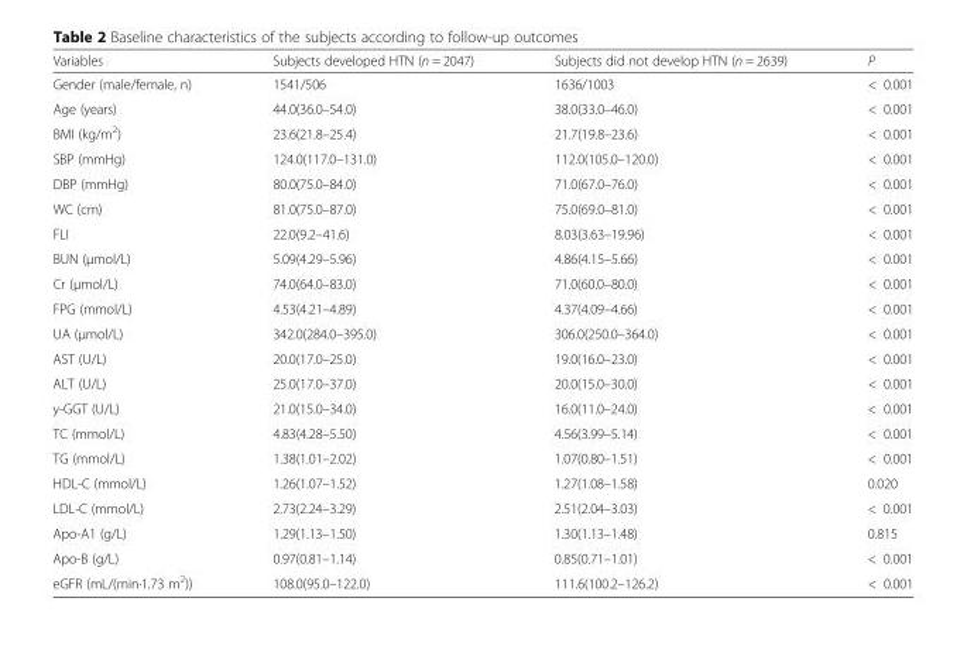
<table><thead><tr><td>Variables</td><td>Subjects developed HTN (n = 2047)</td><td>Subjects did not develop HTN (n = 2639)</td><td>P</td></tr></thead><tbody><tr><td>Gender (male/female, n)</td><td>1541/506</td><td>1636/1003</td><td>&lt; 0.001</td></tr><tr><td>Age (years)</td><td>44.0(36.0–54.0)</td><td>38.0(33.0–46.0)</td><td>&lt; 0.001</td></tr><tr><td>BMI (kg/m2)</td><td>23.6(21.8–25.4)</td><td>21.7(19.8–23.6)</td><td>&lt; 0.001</td></tr><tr><td>SBP (mmHg)</td><td>124.0(117.0–131.0)</td><td>112.0(105.0–120.0)</td><td>&lt; 0.001</td></tr><tr><td>DBP (mmHg)</td><td>80.0(75.0–84.0)</td><td>71.0(67.0–76.0)</td><td>&lt; 0.001</td></tr><tr><td>WC (cm)</td><td>81.0(75.0–87.0)</td><td>75.0(69.0–81.0)</td><td>&lt; 0.001</td></tr><tr><td>FLI</td><td>22.0(9.2–41.6)</td><td>8.03(3.63–19.96)</td><td>&lt; 0.001</td></tr><tr><td>BUN (μmol/L)</td><td>5.09(4.29–5.96)</td><td>4.86(4.15–5.66)</td><td>&lt; 0.001</td></tr><tr><td>Cr (μmol/L)</td><td>74.0(64.0–83.0)</td><td>71.0(60.0–80.0)</td><td>&lt; 0.001</td></tr><tr><td>FPG (mmol/L)</td><td>4.53(4.21–4.89)</td><td>4.37(4.09–4.66)</td><td>&lt; 0.001</td></tr><tr><td>UA (μmol/L)</td><td>342.0(284.0–395.0)</td><td>306.0(250.0–364.0)</td><td>&lt; 0.001</td></tr><tr><td>AST (U/L)</td><td>20.0(17.0–25.0)</td><td>19.0(16.0–23.0)</td><td>&lt; 0.001</td></tr><tr><td>ALT (U/L)</td><td>25.0(17.0–37.0)</td><td>20.0(15.0–30.0)</td><td>&lt; 0.001</td></tr><tr><td>y-GGT (U/L)</td><td>21.0(15.0–34.0)</td><td>16.0(11.0–24.0)</td><td>&lt; 0.001</td></tr><tr><td>TC (mmol/L)</td><td>4.83(4.28–5.50)</td><td>4.56(3.99–5.14)</td><td>&lt; 0.001</td></tr><tr><td>TG (mmol/L)</td><td>1.38(1.01–2.02)</td><td>1.07(0.80–1.51)</td><td>&lt; 0.001</td></tr><tr><td>HDL-C (mmol/L)</td><td>1.26(1.07–1.52)</td><td>1.27(1.08–1.58)</td><td>0.020</td></tr><tr><td>LDL-C (mmol/L)</td><td>2.73(2.24–3.29)</td><td>2.51(2.04–3.03)</td><td>&lt; 0.001</td></tr><tr><td>Apo-A1 (g/L)</td><td>1.29(1.13–1.50)</td><td>1.30(1.13–1.48)</td><td>0.815</td></tr><tr><td>Apo-B (g/L)</td><td>0.97(0.81–1.14)</td><td>0.85(0.71–1.01)</td><td>&lt; 0.001</td></tr><tr><td>eGFR (mL/(min·1.73 m2))</td><td>108.0(95.0–122.0)</td><td>111.6(100.2–126.2)</td><td>&lt; 0.001</td></tr></tbody></table>